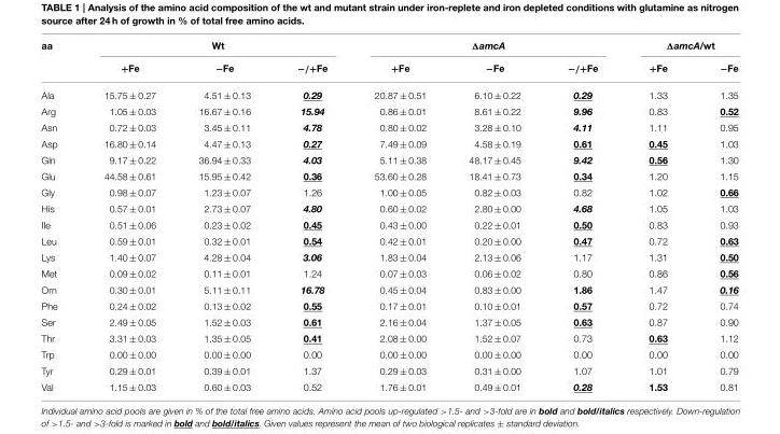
<table><thead><tr><td rowspan="2">aa</td><td colspan="3">Wt</td><td colspan="3">ΔamcA</td><td colspan="2">ΔamcA/wt</td></tr><tr><td>+Fe</td><td>−Fe</td><td>−/+Fe</td><td>+Fe</td><td>−Fe</td><td>−/+Fe</td><td>+Fe</td><td>−Fe</td></tr></thead><tbody><tr><td>Ala</td><td>15.75 ± 0.27</td><td>4.51 ± 0.13</td><td>0.29</td><td>20.87 ± 0.51</td><td>6.10 ± 0.22</td><td>0.29</td><td>1.33</td><td>1.35</td></tr><tr><td>Arg</td><td>1.05 ± 0.03</td><td>16.67 ± 0.16</td><td>15.94</td><td>0.86 ± 0.01</td><td>8.61 ± 0.22</td><td>9.96</td><td>0.83</td><td>0.52</td></tr><tr><td>Asn</td><td>0.72 ± 0.03</td><td>3.45 ± 0.11</td><td>4.78</td><td>0.80 ± 0.02</td><td>3.28 ± 0.10</td><td>4.11</td><td>1.11</td><td>0.95</td></tr><tr><td>Asp</td><td>16.80 ± 0.14</td><td>4.47 ± 0.13</td><td>0.27</td><td>7.49 ± 0.09</td><td>4.58 ± 0.19</td><td>0.61</td><td>0.45</td><td>1.03</td></tr><tr><td>Gln</td><td>9.17 ± 0.22</td><td>36.94 ± 0.33</td><td>4.03</td><td>5.11 ± 0.38</td><td>48.17 ± 0.45</td><td>9.42</td><td>0.56</td><td>1.30</td></tr><tr><td>Glu</td><td>44.58 ± 0.61</td><td>15.95 ± 0.42</td><td>0.36</td><td>53.60 ± 0.28</td><td>18.41 ± 0.73</td><td>0.34</td><td>1.20</td><td>1.15</td></tr><tr><td>Gly</td><td>0.98 ± 0.07</td><td>1.23 ± 0.07</td><td>1.26</td><td>1.00 ± 0.05</td><td>0.82 ± 0.03</td><td>0.82</td><td>1.02</td><td>0.66</td></tr><tr><td>His</td><td>0.57 ± 0.01</td><td>2.73 ± 0.07</td><td>4.80</td><td>0.60 ± 0.02</td><td>2.80 ± 0.00</td><td>4.68</td><td>1.05</td><td>1.03</td></tr><tr><td>Ile</td><td>0.51 ± 0.06</td><td>0.23 ± 0.02</td><td>0.45</td><td>0.43 ± 0.00</td><td>0.22 ± 0.01</td><td>0.50</td><td>0.83</td><td>0.93</td></tr><tr><td>Leu</td><td>0.59 ± 0.01</td><td>0.32 ± 0.01</td><td>0.54</td><td>0.42 ± 0.01</td><td>0.20 ± 0.00</td><td>0.47</td><td>0.72</td><td>0.63</td></tr><tr><td>Lys</td><td>1.40 ± 0.07</td><td>4.28 ± 0.04</td><td>3.06</td><td>1.83 ± 0.04</td><td>2.13 ± 0.06</td><td>1.17</td><td>1.31</td><td>0.50</td></tr><tr><td>Met</td><td>0.09 ± 0.02</td><td>0.11 ± 0.01</td><td>1.24</td><td>0.07 ± 0.03</td><td>0.06 ± 0.02</td><td>0.80</td><td>0.86</td><td>0.56</td></tr><tr><td>Orn</td><td>0.30 ± 0.01</td><td>5.11 ± 0.11</td><td>16.78</td><td>0.45 ± 0.04</td><td>0.83 ± 0.00</td><td>1.86</td><td>1.47</td><td>0.16</td></tr><tr><td>Phe</td><td>0.24 ± 0.02</td><td>0.13 ± 0.02</td><td>0.55</td><td>0.17 ± 0.01</td><td>0.10 ± 0.01</td><td>0.57</td><td>0.72</td><td>0.74</td></tr><tr><td>Ser</td><td>2.49 ± 0.05</td><td>1.52 ± 0.03</td><td>0.61</td><td>2.16 ± 0.04</td><td>1.37 ± 0.05</td><td>0.63</td><td>0.87</td><td>0.90</td></tr><tr><td>Thr</td><td>3.31 ± 0.03</td><td>1.35 ± 0.05</td><td>0.41</td><td>2.08 ± 0.00</td><td>1.52 ± 0.07</td><td>0.73</td><td>0.63</td><td>1.12</td></tr><tr><td>Trp</td><td>0.00 ± 0.00</td><td>0.00 ± 0.00</td><td>0.00</td><td>0.00 ± 0.00</td><td>0.00 ± 0.00</td><td>0.00</td><td>0.00</td><td>0.00</td></tr><tr><td>Tyr</td><td>0.29 ± 0.01</td><td>0.39 ± 0.01</td><td>1.37</td><td>0.29 ± 0.03</td><td>0.31 ± 0.00</td><td>1.07</td><td>1.01</td><td>0.79</td></tr><tr><td>Val</td><td>1.15 ± 0.03</td><td>0.60 ± 0.03</td><td>0.52</td><td>1.76 ± 0.01</td><td>0.49 ± 0.01</td><td>0.28</td><td>1.53</td><td>0.81</td></tr></tbody></table>